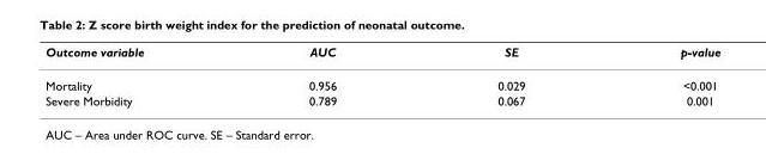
<table><thead><tr><td>Outcome variable</td><td>AUC</td><td>SE</td><td>p-value</td></tr></thead><tbody><tr><td>Mortality</td><td>0.956</td><td>0.029</td><td>&lt;0.001</td></tr><tr><td>Severe Morbidity</td><td>0.789</td><td>0.067</td><td>0.001</td></tr></tbody></table>